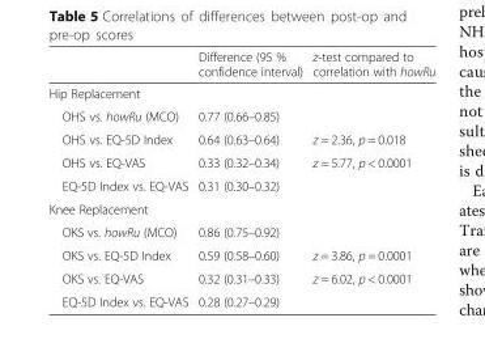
<table><thead><tr><td></td><td>Difference (95 % confidence interval)</td><td>z-test compared to correlation with howRu</td></tr></thead><tbody><tr><td colspan="3">Hip Replacement</td></tr><tr><td>OHS vs. howRu (MCO)</td><td>0.77 (0.66–0.85)</td><td></td></tr><tr><td>OHS vs. EQ-5D Index</td><td>0.64 (0.63–0.64)</td><td>z = 2.36, p = 0.018</td></tr><tr><td>OHS vs. EQ-VAS</td><td>0.33 (0.32–0.34)</td><td>z = 5.77, p &lt; 0.0001</td></tr><tr><td>EQ-5D Index vs. EQ-VAS</td><td>0.31 (0.30–0.32)</td><td></td></tr><tr><td colspan="3">Knee Replacement</td></tr><tr><td>OKS vs. howRu (MCO)</td><td>0.86 (0.75–0.92)</td><td></td></tr><tr><td>OKS vs. EQ-5D Index</td><td>0.59 (0.58–0.60)</td><td>z = 3.86, p = 0.0001</td></tr><tr><td>OKS vs. EQ-VAS</td><td>0.32 (0.31–0.33)</td><td>z = 6.02, p &lt; 0.0001</td></tr><tr><td>EQ-5D Index vs. EQ-VAS</td><td>0.28 (0.27–0.29)</td><td></td></tr></tbody></table>